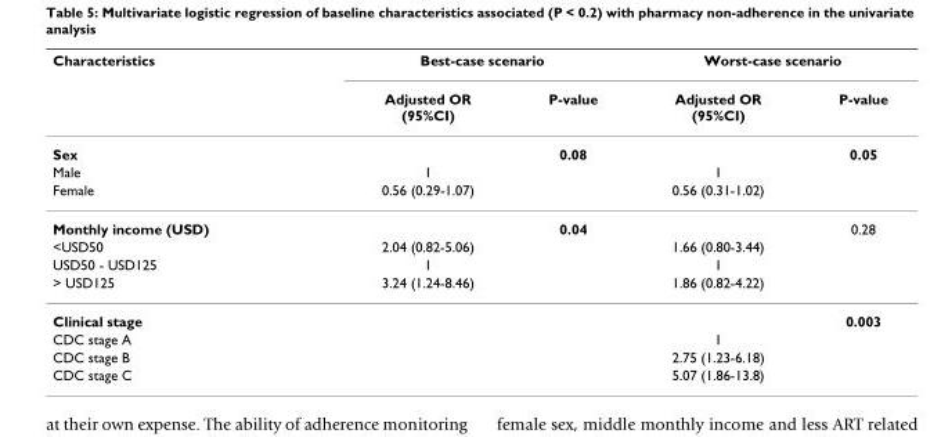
<table><thead><tr><td rowspan="2">Characteristics</td><td colspan="2">Best-case scenario</td><td colspan="2">Worst-case scenario</td></tr><tr><td>Adjusted OR (95%CI)</td><td>P-value</td><td>Adjusted OR (95%CI)</td><td>P-value</td></tr></thead><tbody><tr><td>Sex</td><td></td><td>0.08</td><td></td><td>0.05</td></tr><tr><td>Male</td><td>1</td><td></td><td>1</td><td></td></tr><tr><td>Female</td><td>0.56 (0.29-1.07)</td><td></td><td>0.56 (0.31-1.02)</td><td></td></tr><tr><td>Monthly income (USD)</td><td></td><td>0.04</td><td></td><td>0.28</td></tr><tr><td>&lt;USD50</td><td>2.04 (0.82-5.06)</td><td></td><td>1.66 (0.80-3.44)</td><td></td></tr><tr><td>USD50 - USD125</td><td>1</td><td></td><td>1</td><td></td></tr><tr><td>&gt; USD125</td><td>3.24 (1.24-8.46)</td><td></td><td>1.86 (0.82-4.22)</td><td></td></tr><tr><td>Clinical stage</td><td></td><td></td><td></td><td>0.003</td></tr><tr><td>CDC stage A</td><td></td><td></td><td>1</td><td></td></tr><tr><td>CDC stage B</td><td></td><td></td><td>2.75 (1.23-6.18)</td><td></td></tr><tr><td>CDC stage C</td><td></td><td></td><td>5.07 (1.86-13.8)</td><td></td></tr></tbody></table>